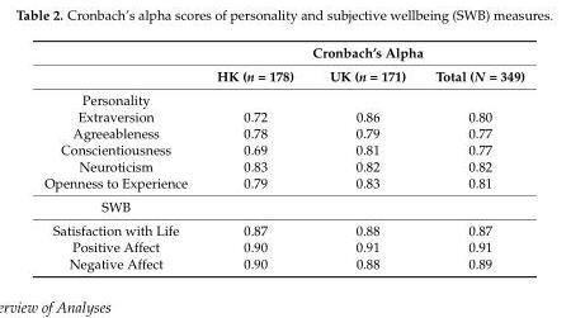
<table><thead><tr><td rowspan="2"></td><td colspan="3">Cronbach’s Alpha</td></tr><tr><td>HK (n = 178)</td><td>UK (n = 171)</td><td>Total (N = 349)</td></tr></thead><tbody><tr><td colspan="4">Personality</td></tr><tr><td>Extraversion</td><td>0.72</td><td>0.86</td><td>0.80</td></tr><tr><td>Agreeableness</td><td>0.78</td><td>0.79</td><td>0.77</td></tr><tr><td>Conscientiousness</td><td>0.69</td><td>0.81</td><td>0.77</td></tr><tr><td>Neuroticism</td><td>0.83</td><td>0.82</td><td>0.82</td></tr><tr><td>Openness to Experience</td><td>0.79</td><td>0.83</td><td>0.81</td></tr><tr><td colspan="4">SWB</td></tr><tr><td>Satisfaction with Life</td><td>0.87</td><td>0.88</td><td>0.87</td></tr><tr><td>Positive Affect</td><td>0.90</td><td>0.91</td><td>0.91</td></tr><tr><td>Negative Affect</td><td>0.90</td><td>0.88</td><td>0.89</td></tr></tbody></table>